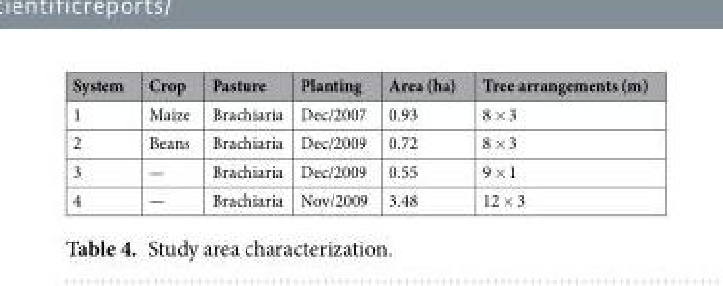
<table><thead><tr><td>System</td><td>Crop</td><td>Pasture</td><td>Planting</td><td>Area (ha)</td><td>Tree arrangements (m)</td></tr></thead><tbody><tr><td>1</td><td>Maize</td><td>Brachiaria</td><td>Dec/2007</td><td>0.93</td><td>8 × 3</td></tr><tr><td>2</td><td>Beans</td><td>Brachiaria</td><td>Dec/2009</td><td>0.72</td><td>8 × 3</td></tr><tr><td>3</td><td>—</td><td>Brachiaria</td><td>Dec/2009</td><td>0.55</td><td>9 × 1</td></tr><tr><td>4</td><td>—</td><td>Brachiaria</td><td>Nov/2009</td><td>3.48</td><td>12 × 3</td></tr></tbody></table>